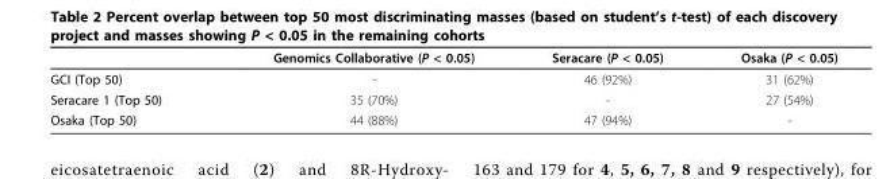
<table><thead><tr><td></td><td>Genomics Collaborative (P &lt; 0.05)</td><td>Seracare (P &lt; 0.05)</td><td>Osaka (P &lt; 0.05)</td></tr></thead><tbody><tr><td>GCI (Top 50)</td><td>-</td><td>46 (92%)</td><td>31 (62%)</td></tr><tr><td>Seracare 1 (Top 50)</td><td>35 (70%)</td><td>-</td><td>27 (54%)</td></tr><tr><td>Osaka (Top 50)</td><td>44 (88%)</td><td>47 (94%)</td><td>-</td></tr></tbody></table>